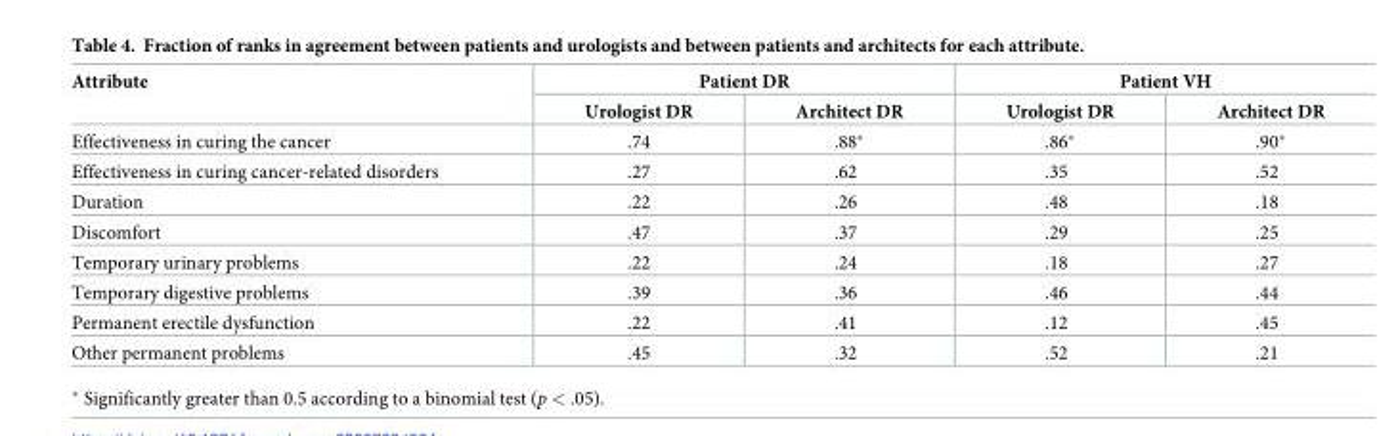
<table><thead><tr><td rowspan="2">Attribute</td><td colspan="2">Patient DR</td><td colspan="2">Patient VH</td></tr><tr><td>Urologist DR</td><td>Architect DR</td><td>Urologist DR</td><td>Architect DR</td></tr></thead><tbody><tr><td>Effectiveness in curing the cancer</td><td>.74</td><td>.88*</td><td>.86*</td><td>.90*</td></tr><tr><td>Effectiveness in curing cancer-related disorders</td><td>.27</td><td>.62</td><td>.35</td><td>.52</td></tr><tr><td>Duration</td><td>.22</td><td>.26</td><td>.48</td><td>.18</td></tr><tr><td>Discomfort</td><td>.47</td><td>.37</td><td>.29</td><td>.25</td></tr><tr><td>Temporary urinary problems</td><td>.22</td><td>.24</td><td>.18</td><td>.27</td></tr><tr><td>Temporary digestive problems</td><td>.39</td><td>.36</td><td>.46</td><td>.44</td></tr><tr><td>Permanent erectile dysfunction</td><td>.22</td><td>.41</td><td>.12</td><td>.45</td></tr><tr><td>Other permanent problems</td><td>.45</td><td>.32</td><td>.52</td><td>.21</td></tr></tbody></table>